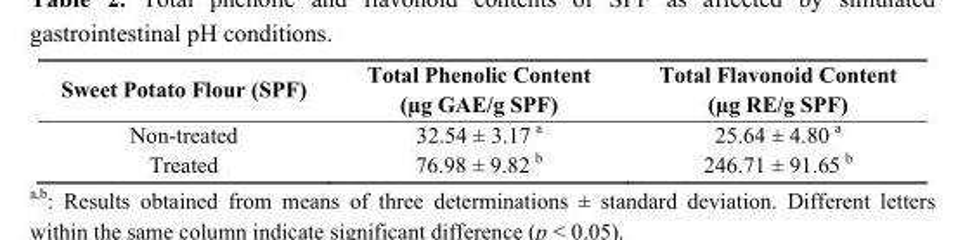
<table><thead><tr><td>Sweet Potato Flour (SPF)</td><td>Total Phenolic Content (µg GAE/g SPF)</td><td>Total Flavonoid Content (µg RE/g SPF)</td></tr></thead><tbody><tr><td>Non-treated</td><td>32.54 ± 3.17 a</td><td>25.64 ± 4.80 a</td></tr><tr><td>Treated</td><td>76.98 ± 9.82 b</td><td>246.71 ± 91.65 b</td></tr></tbody></table>